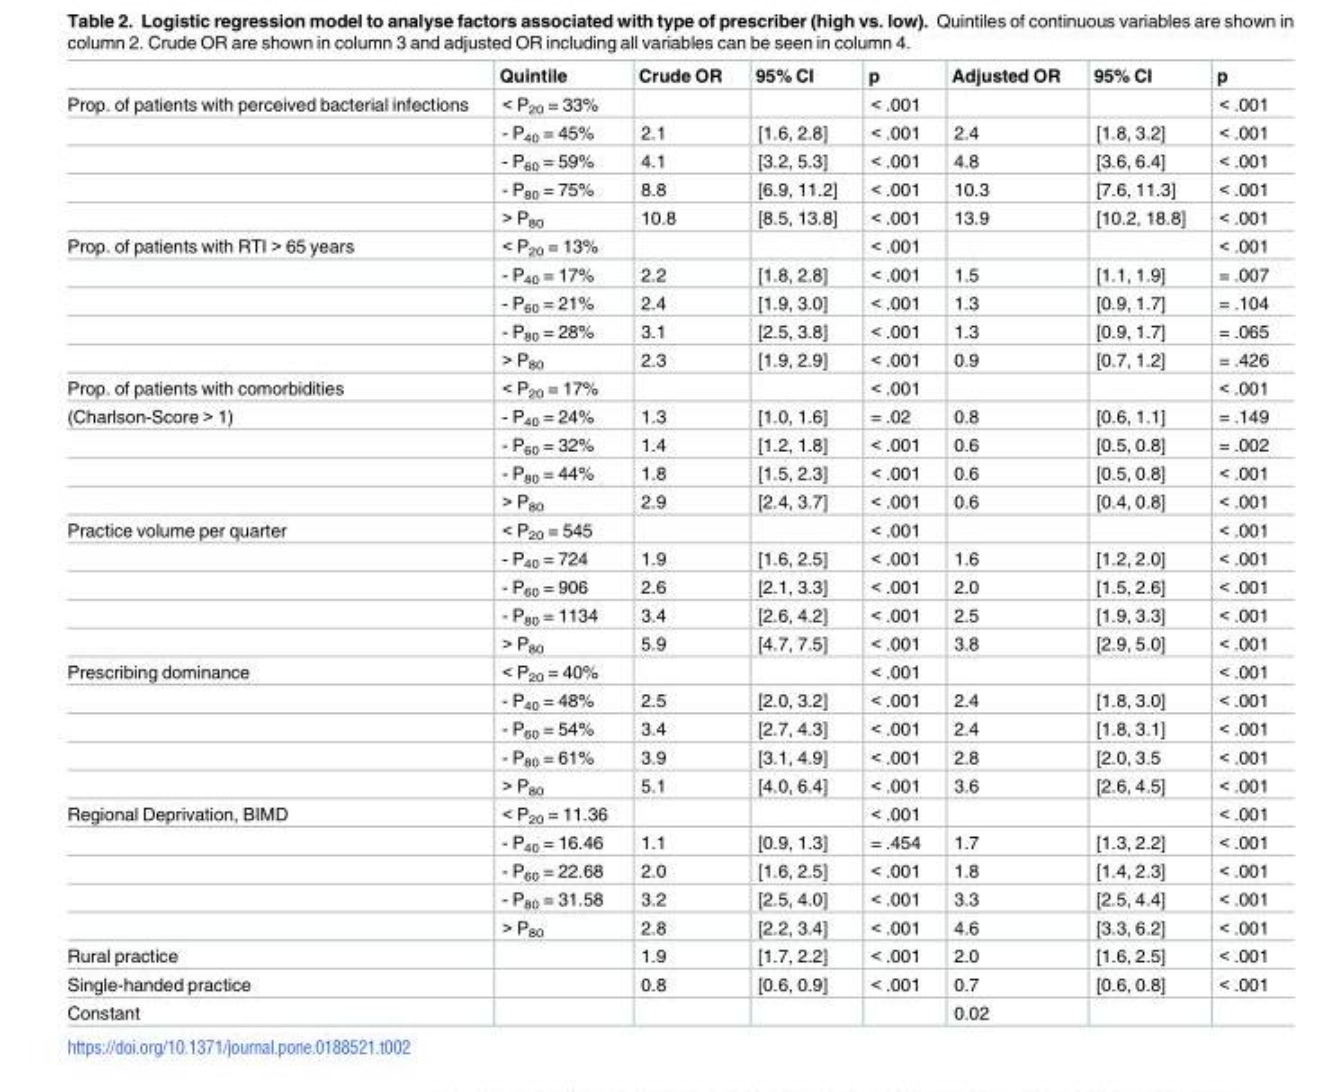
<table><thead><tr><td></td><td>Quintile</td><td>Crude OR</td><td>95% CI</td><td>p</td><td>Adjusted OR</td><td>95% CI</td><td>p</td></tr></thead><tbody><tr><td rowspan="5">Prop. of patients with perceived bacterial infections</td><td>&lt; P<sub>20</sub> = 33%</td><td></td><td></td><td>&lt; .001</td><td></td><td></td><td>&lt; .001</td></tr><tr><td>- P<sub>40</sub> = 45%</td><td>2.1</td><td>[1.6, 2.8]</td><td>&lt; .001</td><td>2.4</td><td>[1.8, 3.2]</td><td>&lt; .001</td></tr><tr><td>- P<sub>60</sub> = 59%</td><td>4.1</td><td>[3.2, 5.3]</td><td>&lt; .001</td><td>4.8</td><td>[3.6, 6.4]</td><td>&lt; .001</td></tr><tr><td>- P<sub>80</sub> = 75%</td><td>8.8</td><td>[6.9, 11.2]</td><td>&lt; .001</td><td>10.3</td><td>[7.6, 11.3]</td><td>&lt; .001</td></tr><tr><td>&gt; P<sub>80</sub></td><td>10.8</td><td>[8.5, 13.8]</td><td>&lt; .001</td><td>13.9</td><td>[10.2, 18.8]</td><td>&lt; .001</td></tr><tr><td rowspan="5">Prop. of patients with RTI &gt; 65 years</td><td>&lt; P<sub>20</sub> = 13%</td><td></td><td></td><td>&lt; .001</td><td></td><td></td><td>&lt; .001</td></tr><tr><td>- P<sub>40</sub> = 17%</td><td>2.2</td><td>[1.8, 2.8]</td><td>&lt; .001</td><td>1.5</td><td>[1.1, 1.9]</td><td>= .007</td></tr><tr><td>- P<sub>60</sub> = 21%</td><td>2.4</td><td>[1.9, 3.0]</td><td>&lt; .001</td><td>1.3</td><td>[0.9, 1.7]</td><td>= .104</td></tr><tr><td>- P<sub>80</sub> = 28%</td><td>3.1</td><td>[2.5, 3.8]</td><td>&lt; .001</td><td>1.3</td><td>[0.9, 1.7]</td><td>= .065</td></tr><tr><td>&gt; P<sub>80</sub></td><td>2.3</td><td>[1.9, 2.9]</td><td>&lt; .001</td><td>0.9</td><td>[0.7, 1.2]</td><td>= .426</td></tr><tr><td>Prop. of patients with comorbidities</td><td>&lt; P<sub>20</sub> = 17%</td><td></td><td></td><td>&lt; .001</td><td></td><td></td><td>&lt; .001</td></tr><tr><td rowspan="4">(Charlson-Score &gt; 1)</td><td>- P<sub>40</sub> = 24%</td><td>1.3</td><td>[1.0, 1.6]</td><td>= .02</td><td>0.8</td><td>[0.6, 1.1]</td><td>= .149</td></tr><tr><td>- P<sub>60</sub> = 32%</td><td>1.4</td><td>[1.2, 1.8]</td><td>&lt; .001</td><td>0.6</td><td>[0.5, 0.8]</td><td>= .002</td></tr><tr><td>- P<sub>80</sub> = 44%</td><td>1.8</td><td>[1.5, 2.3]</td><td>&lt; .001</td><td>0.6</td><td>[0.5, 0.8]</td><td>&lt; .001</td></tr><tr><td>&gt; P<sub>80</sub></td><td>2.9</td><td>[2.4, 3.7]</td><td>&lt; .001</td><td>0.6</td><td>[0.4, 0.8]</td><td>&lt; .001</td></tr><tr><td rowspan="5">Practice volume per quarter</td><td>&lt; P<sub>20</sub> = 545</td><td></td><td></td><td>&lt; .001</td><td></td><td></td><td>&lt; .001</td></tr><tr><td>- P<sub>40</sub> = 724</td><td>1.9</td><td>[1.6, 2.5]</td><td>&lt; .001</td><td>1.6</td><td>[1.2, 2.0]</td><td>&lt; .001</td></tr><tr><td>- P<sub>60</sub> = 906</td><td>2.6</td><td>[2.1, 3.3]</td><td>&lt; .001</td><td>2.0</td><td>[1.5, 2.6]</td><td>&lt; .001</td></tr><tr><td>- P<sub>80</sub> = 1134</td><td>3.4</td><td>[2.6, 4.2]</td><td>&lt; .001</td><td>2.5</td><td>[1.9, 3.3]</td><td>&lt; .001</td></tr><tr><td>&gt; P<sub>80</sub></td><td>5.9</td><td>[4.7, 7.5]</td><td>&lt; .001</td><td>3.8</td><td>[2.9, 5.0]</td><td>&lt; .001</td></tr><tr><td rowspan="5">Prescribing dominance</td><td>&lt; P<sub>20</sub> = 40%</td><td></td><td></td><td>&lt; .001</td><td></td><td></td><td>&lt; .001</td></tr><tr><td>- P<sub>40</sub> = 48%</td><td>2.5</td><td>[2.0, 3.2]</td><td>&lt; .001</td><td>2.4</td><td>[1.8, 3.0]</td><td>&lt; .001</td></tr><tr><td>- P<sub>60</sub> = 54%</td><td>3.4</td><td>[2.7, 4.3]</td><td>&lt; .001</td><td>2.4</td><td>[1.8, 3.1]</td><td>&lt; .001</td></tr><tr><td>- P<sub>80</sub> = 61%</td><td>3.9</td><td>[3.1, 4.9]</td><td>&lt; .001</td><td>2.8</td><td>[2.0, 3.5</td><td>&lt; .001</td></tr><tr><td>&gt; P<sub>80</sub></td><td>5.1</td><td>[4.0, 6.4]</td><td>&lt; .001</td><td>3.6</td><td>[2.6, 4.5]</td><td>&lt; .001</td></tr><tr><td rowspan="5">Regional Deprivation, BIMD</td><td>&lt; P<sub>20</sub> = 11.36</td><td></td><td></td><td>&lt; .001</td><td></td><td></td><td>&lt; .001</td></tr><tr><td>- P<sub>40</sub> = 16.46</td><td>1.1</td><td>[0.9, 1.3]</td><td>= .454</td><td>1.7</td><td>[1.3, 2.2]</td><td>&lt; .001</td></tr><tr><td>- P<sub>60</sub> = 22.68</td><td>2.0</td><td>[1.6, 2.5]</td><td>&lt; .001</td><td>1.8</td><td>[1.4, 2.3]</td><td>&lt; .001</td></tr><tr><td>- P<sub>80</sub> = 31.58</td><td>3.2</td><td>[2.5, 4.0]</td><td>&lt; .001</td><td>3.3</td><td>[2.5, 4.4]</td><td>&lt; .001</td></tr><tr><td>&gt; P<sub>80</sub></td><td>2.8</td><td>[2.2, 3.4]</td><td>&lt; .001</td><td>4.6</td><td>[3.3, 6.2]</td><td>&lt; .001</td></tr><tr><td>Rural practice</td><td></td><td>1.9</td><td>[1.7, 2.2]</td><td>&lt; .001</td><td>2.0</td><td>[1.6, 2.5]</td><td>&lt; .001</td></tr><tr><td>Single-handed practice</td><td></td><td>0.8</td><td>[0.6, 0.9]</td><td>&lt; .001</td><td>0.7</td><td>[0.6, 0.8]</td><td>&lt; .001</td></tr><tr><td>Constant</td><td></td><td></td><td></td><td></td><td>0.02</td><td></td><td></td></tr></tbody></table>